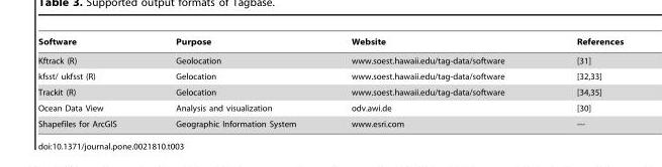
<table><thead><tr><td>Software</td><td>Purpose</td><td>Website</td><td>References</td></tr></thead><tbody><tr><td>Kftrack (R)</td><td>Geolocation</td><td>www.soest.hawaii.edu/tag-data/software</td><td>[31]</td></tr><tr><td>kfsst/ ukfsst (R)</td><td>Gelocation</td><td>www.soest.hawaii.edu/tag-data/software</td><td>[32,33]</td></tr><tr><td>Trackit (R)</td><td>Gelocation</td><td>www.soest.hawaii.edu/tag-data/software</td><td>[34,35]</td></tr><tr><td>Ocean Data View</td><td>Analysis and visualization</td><td>odv.awi.de</td><td>[30]</td></tr><tr><td>Shapefiles for ArcGIS</td><td>Geographic Information System</td><td>www.esri.com</td><td>---</td></tr></tbody></table>